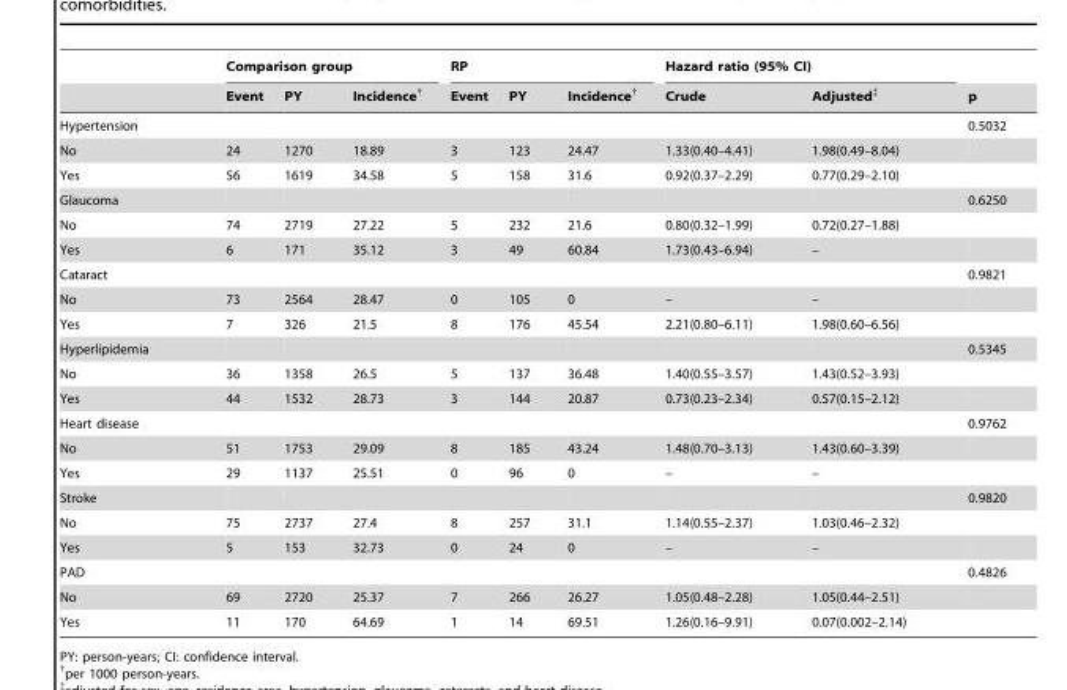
<table><thead><tr><td rowspan="2"></td><td colspan="3">Comparison group</td><td colspan="3">RP</td><td colspan="2">Hazard ratio (95% CI)</td><td rowspan="2">p</td></tr><tr><td>Event</td><td>PY</td><td>Incidence†</td><td>Event</td><td>PY</td><td>Incidence†</td><td>Crude</td><td>Adjusted‡</td></tr></thead><tbody><tr><td>Hypertension</td><td></td><td></td><td></td><td></td><td></td><td></td><td></td><td></td><td>0.5032</td></tr><tr><td>No</td><td>24</td><td>1270</td><td>18.89</td><td>3</td><td>123</td><td>24.47</td><td>1.33(0.40–4.41)</td><td>1.98(0.49–8.04)</td><td></td></tr><tr><td>Yes</td><td>56</td><td>1619</td><td>34.58</td><td>5</td><td>158</td><td>31.6</td><td>0.92(0.37–2.29)</td><td>0.77(0.29–2.10)</td><td></td></tr><tr><td>Glaucoma</td><td></td><td></td><td></td><td></td><td></td><td></td><td></td><td></td><td>0.6250</td></tr><tr><td>No</td><td>74</td><td>2719</td><td>27.22</td><td>5</td><td>232</td><td>21.6</td><td>0.80(0.32–1.99)</td><td>0.72(0.27–1.88)</td><td></td></tr><tr><td>Yes</td><td>6</td><td>171</td><td>35.12</td><td>3</td><td>49</td><td>60.84</td><td>1.73(0.43–6.94)</td><td>–</td><td></td></tr><tr><td>Cataract</td><td></td><td></td><td></td><td></td><td></td><td></td><td></td><td></td><td>0.9821</td></tr><tr><td>No</td><td>73</td><td>2564</td><td>28.47</td><td>0</td><td>105</td><td>0</td><td>–</td><td>–</td><td></td></tr><tr><td>Yes</td><td>7</td><td>326</td><td>21.5</td><td>8</td><td>176</td><td>45.54</td><td>2.21(0.80–6.11)</td><td>1.98(0.60–6.56)</td><td></td></tr><tr><td>Hyperlipidemia</td><td></td><td></td><td></td><td></td><td></td><td></td><td></td><td></td><td>0.5345</td></tr><tr><td>No</td><td>36</td><td>1358</td><td>26.5</td><td>5</td><td>137</td><td>36.48</td><td>1.40(0.55–3.57)</td><td>1.43(0.52–3.93)</td><td></td></tr><tr><td>Yes</td><td>44</td><td>1532</td><td>28.73</td><td>3</td><td>144</td><td>20.87</td><td>0.73(0.23–2.34)</td><td>0.57(0.15–2.12)</td><td></td></tr><tr><td>Heart disease</td><td></td><td></td><td></td><td></td><td></td><td></td><td></td><td></td><td>0.9762</td></tr><tr><td>No</td><td>51</td><td>1753</td><td>29.09</td><td>8</td><td>185</td><td>43.24</td><td>1.48(0.70–3.13)</td><td>1.43(0.60–3.39)</td><td></td></tr><tr><td>Yes</td><td>29</td><td>1137</td><td>25.51</td><td>0</td><td>96</td><td>0</td><td>–</td><td>–</td><td></td></tr><tr><td>Stroke</td><td></td><td></td><td></td><td></td><td></td><td></td><td></td><td></td><td>0.9820</td></tr><tr><td>No</td><td>75</td><td>2737</td><td>27.4</td><td>8</td><td>257</td><td>31.1</td><td>1.14(0.55–2.37)</td><td>1.03(0.46–2.32)</td><td></td></tr><tr><td>Yes</td><td>5</td><td>153</td><td>32.73</td><td>0</td><td>24</td><td>0</td><td>–</td><td>–</td><td></td></tr><tr><td>PAD</td><td></td><td></td><td></td><td></td><td></td><td></td><td></td><td></td><td>0.4826</td></tr><tr><td>No</td><td>69</td><td>2720</td><td>25.37</td><td>7</td><td>266</td><td>26.27</td><td>1.05(0.48–2.28)</td><td>1.05(0.44–2.51)</td><td></td></tr><tr><td>Yes</td><td>11</td><td>170</td><td>64.69</td><td>1</td><td>14</td><td>69.51</td><td>1.26(0.16–9.91)</td><td>0.07(0.002–2.14)</td><td></td></tr></tbody></table>